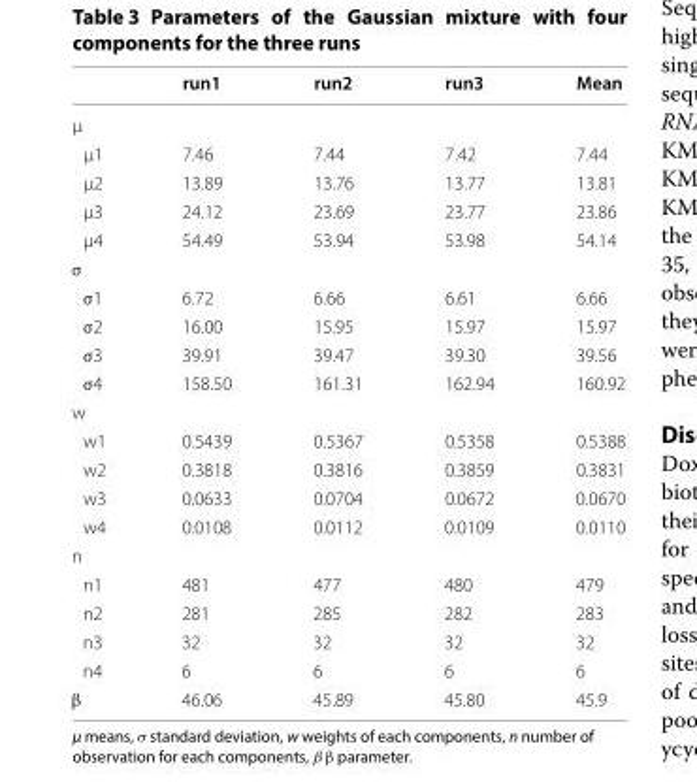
<table><thead><tr><td></td><td>run1</td><td>run2</td><td>run3</td><td>Mean</td></tr></thead><tbody><tr><td colspan="5">µ</td></tr><tr><td>µ1</td><td>7.46</td><td>7.44</td><td>7.42</td><td>7.44</td></tr><tr><td>µ2</td><td>13.89</td><td>13.76</td><td>13.77</td><td>13.81</td></tr><tr><td>µ3</td><td>24.12</td><td>23.69</td><td>23.77</td><td>23.86</td></tr><tr><td>µ4</td><td>54.49</td><td>53.94</td><td>53.98</td><td>54.14</td></tr><tr><td colspan="5">σ</td></tr><tr><td>σ1</td><td>6.72</td><td>6.66</td><td>6.61</td><td>6.66</td></tr><tr><td>σ2</td><td>16.00</td><td>15.95</td><td>15.97</td><td>15.97</td></tr><tr><td>σ3</td><td>39.91</td><td>39.47</td><td>39.30</td><td>39.56</td></tr><tr><td>σ4</td><td>158.50</td><td>161.31</td><td>162.94</td><td>160.92</td></tr><tr><td colspan="5">w</td></tr><tr><td>w1</td><td>0.5439</td><td>0.5367</td><td>0.5358</td><td>0.5388</td></tr><tr><td>w2</td><td>0.3818</td><td>0.3816</td><td>0.3859</td><td>0.3831</td></tr><tr><td>w3</td><td>0.0633</td><td>0.0704</td><td>0.0672</td><td>0.0670</td></tr><tr><td>w4</td><td>0.0108</td><td>0.0112</td><td>0.0109</td><td>0.0110</td></tr><tr><td colspan="5">n</td></tr><tr><td>n1</td><td>481</td><td>477</td><td>480</td><td>479</td></tr><tr><td>n2</td><td>281</td><td>285</td><td>282</td><td>283</td></tr><tr><td>n3</td><td>32</td><td>32</td><td>32</td><td>32</td></tr><tr><td>n4</td><td>6</td><td>6</td><td>6</td><td>6</td></tr><tr><td>β</td><td>46.06</td><td>45.89</td><td>45.80</td><td>45.9</td></tr></tbody></table>